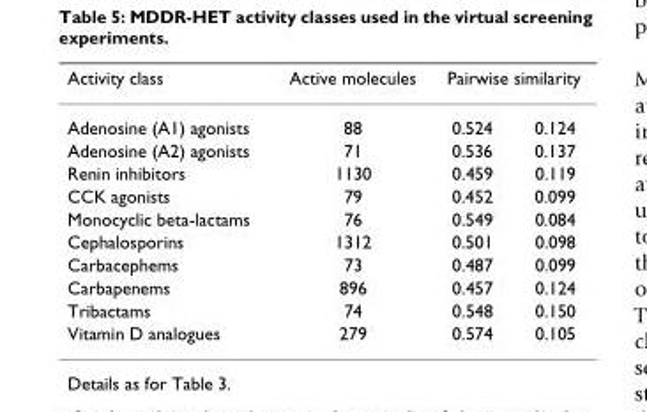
<table><thead><tr><td rowspan="2">Activity class Adenosine (A1) agonists</td><td rowspan="2">Active molecules 88</td><td colspan="2">Pairwise similarity</td></tr><tr><td>0.524</td><td>0.124</td></tr></thead><tbody><tr><td>Adenosine (A2) agonists</td><td>71</td><td>0.536</td><td>0.137</td></tr><tr><td>Renin inhibitors</td><td>1130</td><td>0.459</td><td>0.119</td></tr><tr><td>CCK agonists</td><td>79</td><td>0.452</td><td>0.099</td></tr><tr><td>Monocyclic beta-lactams</td><td>76</td><td>0.549</td><td>0.084</td></tr><tr><td>Cephalosporins</td><td>1312</td><td>0.501</td><td>0.098</td></tr><tr><td>Carbacephems</td><td>73</td><td>0.487</td><td>0.099</td></tr><tr><td>Carbapenems</td><td>896</td><td>0.457</td><td>0.124</td></tr><tr><td>Tribactams</td><td>74</td><td>0.548</td><td>0.150</td></tr><tr><td>Vitamin D analogues</td><td>279</td><td>0.574</td><td>0.105</td></tr></tbody></table>